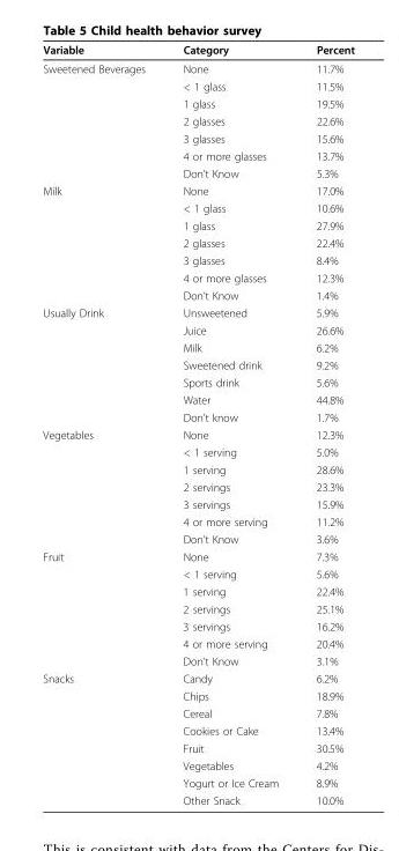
<table><thead><tr><td>Variable</td><td>Category</td><td>Percent</td></tr></thead><tbody><tr><td rowspan="7">Sweetened Beverages</td><td>None</td><td>11.7%</td></tr><tr><td>&lt; 1 glass</td><td>11.5%</td></tr><tr><td>1 glass</td><td>19.5%</td></tr><tr><td>2 glasses</td><td>22.6%</td></tr><tr><td>3 glasses</td><td>15.6%</td></tr><tr><td>4 or more glasses</td><td>13.7%</td></tr><tr><td>Don’t Know</td><td>5.3%</td></tr><tr><td rowspan="7">Milk</td><td>None</td><td>17.0%</td></tr><tr><td>&lt; 1 glass</td><td>10.6%</td></tr><tr><td>1 glass</td><td>27.9%</td></tr><tr><td>2 glasses</td><td>22.4%</td></tr><tr><td>3 glasses</td><td>8.4%</td></tr><tr><td>4 or more glasses</td><td>12.3%</td></tr><tr><td>Don’t Know</td><td>1.4%</td></tr><tr><td rowspan="7">Usually Drink</td><td>Unsweetened</td><td>5.9%</td></tr><tr><td>Juice</td><td>26.6%</td></tr><tr><td>Milk</td><td>6.2%</td></tr><tr><td>Sweetened drink</td><td>9.2%</td></tr><tr><td>Sports drink</td><td>5.6%</td></tr><tr><td>Water</td><td>44.8%</td></tr><tr><td>Don’t know</td><td>1.7%</td></tr><tr><td rowspan="7">Vegetables</td><td>None</td><td>12.3%</td></tr><tr><td>&lt; 1 serving</td><td>5.0%</td></tr><tr><td>1 serving</td><td>28.6%</td></tr><tr><td>2 servings</td><td>23.3%</td></tr><tr><td>3 servings</td><td>15.9%</td></tr><tr><td>4 or more serving</td><td>11.2%</td></tr><tr><td>Don’t Know</td><td>3.6%</td></tr><tr><td rowspan="7">Fruit</td><td>None</td><td>7.3%</td></tr><tr><td>&lt; 1 serving</td><td>5.6%</td></tr><tr><td>1 serving</td><td>22.4%</td></tr><tr><td>2 servings</td><td>25.1%</td></tr><tr><td>3 servings</td><td>16.2%</td></tr><tr><td>4 or more serving</td><td>20.4%</td></tr><tr><td>Don’t Know</td><td>3.1%</td></tr><tr><td rowspan="8">Snacks</td><td>Candy</td><td>6.2%</td></tr><tr><td>Chips</td><td>18.9%</td></tr><tr><td>Cereal</td><td>7.8%</td></tr><tr><td>Cookies or Cake</td><td>13.4%</td></tr><tr><td>Fruit</td><td>30.5%</td></tr><tr><td>Vegetables</td><td>4.2%</td></tr><tr><td>Yogurt or Ice Cream</td><td>8.9%</td></tr><tr><td>Other Snack</td><td>10.0%</td></tr></tbody></table>